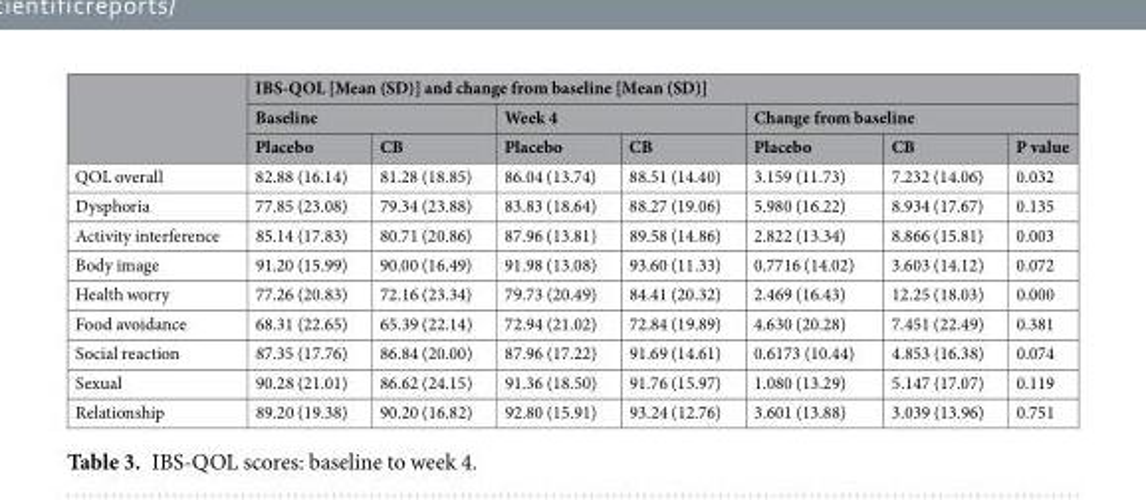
<table><thead><tr><td rowspan="3"></td><td colspan="7">IBS-QOL [Mean (SD)] and change from baseline [Mean (SD)]</td></tr><tr><td colspan="2">Baseline</td><td colspan="2">Week 4</td><td colspan="3">Change from baseline</td></tr><tr><td>Placebo</td><td>CB</td><td>Placebo</td><td>CB</td><td>Placebo</td><td>CB</td><td>P value</td></tr></thead><tbody><tr><td>QOL overall</td><td>82.88 (16.14)</td><td>81.28 (18.85)</td><td>86.04 (13.74)</td><td>88.51 (14.40)</td><td>3.159 (11.73)</td><td>7.232 (14.06)</td><td>0.032</td></tr><tr><td>Dysphoria</td><td>77.85 (23.08)</td><td>79.34 (23.88)</td><td>83.83 (18.64)</td><td>88.27 (19.06)</td><td>5.980 (16.22)</td><td>8.934 (17.67)</td><td>0.135</td></tr><tr><td>Activity interference</td><td>85.14 (17.83)</td><td>80.71 (20.86)</td><td>87.96 (13.81)</td><td>89.58 (14.86)</td><td>2.822 (13.34)</td><td>8.866 (15.81)</td><td>0.003</td></tr><tr><td>Body image</td><td>91.20 (15.99)</td><td>90.00 (16.49)</td><td>91.98 (13.08)</td><td>93.60 (11.33)</td><td>0.7716 (14.02)</td><td>3.603 (14.12)</td><td>0.072</td></tr><tr><td>Health worry</td><td>77.26 (20.83)</td><td>72.16 (23.34)</td><td>79.73 (20.49)</td><td>84.41 (20.32)</td><td>2.469 (16.43)</td><td>12.25 (18.03)</td><td>0.000</td></tr><tr><td>Food avoidance</td><td>68.31 (22.65)</td><td>65.39 (22.14)</td><td>72.94 (21.02)</td><td>72.84 (19.89)</td><td>4.630 (20.28)</td><td>7.451 (22.49)</td><td>0.381</td></tr><tr><td>Social reaction</td><td>87.35 (17.76)</td><td>86.84 (20.00)</td><td>87.96 (17.22)</td><td>91.69 (14.61)</td><td>0.6173 (10.44)</td><td>4.853 (16.38)</td><td>0.074</td></tr><tr><td>Sexual</td><td>90.28 (21.01)</td><td>86.62 (24.15)</td><td>91.36 (18.50)</td><td>91.76 (15.97)</td><td>1.080 (13.29)</td><td>5.147 (17.07)</td><td>0.119</td></tr><tr><td>Relationship</td><td>89.20 (19.38)</td><td>90.20 (16.82)</td><td>92.80 (15.91)</td><td>93.24 (12.76)</td><td>3.601 (13.88)</td><td>3.039 (13.96)</td><td>0.751</td></tr></tbody></table>